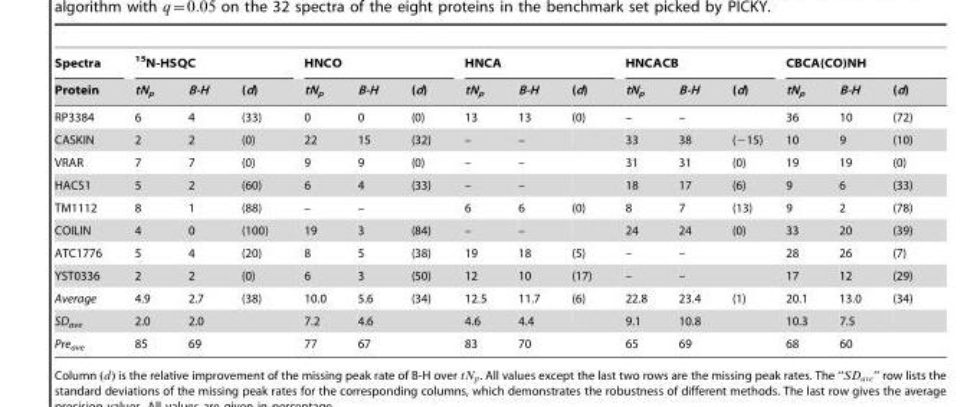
<table><thead><tr><td rowspan="2">Spectra Protein</td><td colspan="3"><sup>15</sup>N-HSQC</td><td colspan="3">HNCO</td><td colspan="3">HNCA</td><td colspan="3">HNCACB</td><td colspan="3">CBCA(CO)NH</td></tr><tr><td>tN<sub>p</sub></td><td>B-H</td><td>(d)</td><td>tN<sub>p</sub></td><td>B-H</td><td>(d)</td><td>tN<sub>p</sub></td><td>B-H</td><td>(d)</td><td>tN<sub>p</sub></td><td>B-H</td><td>(d)</td><td>tN<sub>p</sub></td><td>B-H</td><td>(d)</td></tr></thead><tbody><tr><td>RP3384</td><td>6</td><td>4</td><td>(33)</td><td>0</td><td>0</td><td>(0)</td><td>13</td><td>13</td><td>(0)</td><td>–</td><td>–</td><td></td><td>36</td><td>10</td><td>(72)</td></tr><tr><td>CASKIN</td><td>2</td><td>2</td><td>(0)</td><td>22</td><td>15</td><td>(32)</td><td>–</td><td>–</td><td></td><td>33</td><td>38</td><td>(−15)</td><td>10</td><td>9</td><td>(10)</td></tr><tr><td>VRAR</td><td>7</td><td>7</td><td>(0)</td><td>9</td><td>9</td><td>(0)</td><td>–</td><td>–</td><td></td><td>31</td><td>31</td><td>(0)</td><td>19</td><td>19</td><td>(0)</td></tr><tr><td>HACS1</td><td>5</td><td>2</td><td>(60)</td><td>6</td><td>4</td><td>(33)</td><td>–</td><td>–</td><td></td><td>18</td><td>17</td><td>(6)</td><td>9</td><td>6</td><td>(33)</td></tr><tr><td>TM1112</td><td>8</td><td>1</td><td>(88)</td><td>–</td><td>–</td><td></td><td>6</td><td>6</td><td>(0)</td><td>8</td><td>7</td><td>(13)</td><td>9</td><td>2</td><td>(78)</td></tr><tr><td>COILIN</td><td>4</td><td>0</td><td>(100)</td><td>19</td><td>3</td><td>(84)</td><td>–</td><td>–</td><td></td><td>24</td><td>24</td><td>(0)</td><td>33</td><td>20</td><td>(39)</td></tr><tr><td>ATC1776</td><td>5</td><td>4</td><td>(20)</td><td>8</td><td>5</td><td>(38)</td><td>19</td><td>18</td><td>(5)</td><td>–</td><td>–</td><td></td><td>28</td><td>26</td><td>(7)</td></tr><tr><td>YST0336</td><td>2</td><td>2</td><td>(0)</td><td>6</td><td>3</td><td>(50)</td><td>12</td><td>10</td><td>(17)</td><td>–</td><td>–</td><td></td><td>17</td><td>12</td><td>(29)</td></tr><tr><td>Average</td><td>4.9</td><td>2.7</td><td>(38)</td><td>10.0</td><td>5.6</td><td>(34)</td><td>12.5</td><td>11.7</td><td>(6)</td><td>22.8</td><td>23.4</td><td>(1)</td><td>20.1</td><td>13.0</td><td>(34)</td></tr><tr><td>SD<sub>ave</sub></td><td>2.0</td><td>2.0</td><td></td><td>7.2</td><td>4.6</td><td></td><td>4.6</td><td>4.4</td><td></td><td>9.1</td><td>10.8</td><td></td><td>10.3</td><td>7.5</td><td></td></tr><tr><td>Pre<sub>ave</sub></td><td>85</td><td>69</td><td></td><td>77</td><td>67</td><td></td><td>83</td><td>70</td><td></td><td>65</td><td>69</td><td></td><td>68</td><td>60</td><td></td></tr></tbody></table>